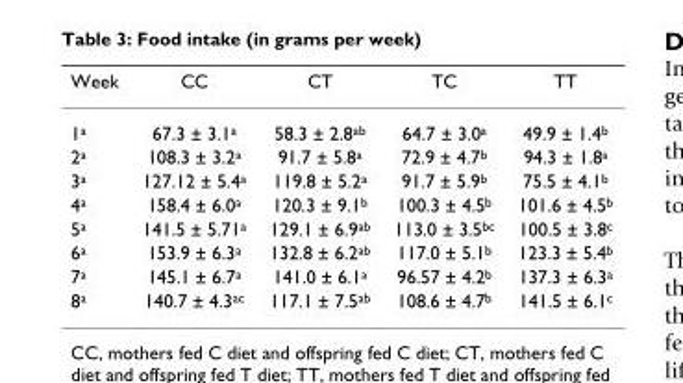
<table><thead><tr><td>Week</td><td>CC</td><td>CT</td><td>TC</td><td>TT</td></tr></thead><tbody><tr><td>1<sup>a</sup></td><td>67.3 ± 3.1<sup>a</sup></td><td>58.3 ± 2.8<sup>ab</sup></td><td>64.7 ± 3.0<sup>a</sup></td><td>49.9 ± 1.4<sup>b</sup></td></tr><tr><td>2<sup>a</sup></td><td>108.3 ± 3.2<sup>a</sup></td><td>91.7 ± 5.8<sup>a</sup></td><td>72.9 ± 4.7<sup>b</sup></td><td>94.3 ± 1.8<sup>a</sup></td></tr><tr><td>3<sup>a</sup></td><td>127.12 ± 5.4<sup>a</sup></td><td>119.8 ± 5.2<sup>a</sup></td><td>91.7 ± 5.9<sup>b</sup></td><td>75.5 ± 4.1<sup>b</sup></td></tr><tr><td>4<sup>a</sup></td><td>158.4 ± 6.0<sup>a</sup></td><td>120.3 ± 9.1<sup>b</sup></td><td>100.3 ± 4.5<sup>b</sup></td><td>101.6 ± 4.5<sup>b</sup></td></tr><tr><td>5<sup>a</sup></td><td>141.5 ± 5.71<sup>a</sup></td><td>129.1 ± 6.9<sup>ab</sup></td><td>113.0 ± 3.5<sup>bc</sup></td><td>100.5 ± 3.8<sup>c</sup></td></tr><tr><td>6<sup>a</sup></td><td>153.9 ± 6.3<sup>a</sup></td><td>132.8 ± 6.2<sup>ab</sup></td><td>117.0 ± 5.1<sup>b</sup></td><td>123.3 ± 5.4<sup>b</sup></td></tr><tr><td>7<sup>a</sup></td><td>145.1 ± 6.7<sup>a</sup></td><td>141.0 ± 6.1<sup>a</sup></td><td>96.57 ± 4.2<sup>b</sup></td><td>137.3 ± 6.3<sup>a</sup></td></tr><tr><td>8<sup>a</sup></td><td>140.7 ± 4.3<sup>ac</sup></td><td>117.1 ± 7.5<sup>ab</sup></td><td>108.6 ± 4.7<sup>b</sup></td><td>141.5 ± 6.1<sup>c</sup></td></tr></tbody></table>